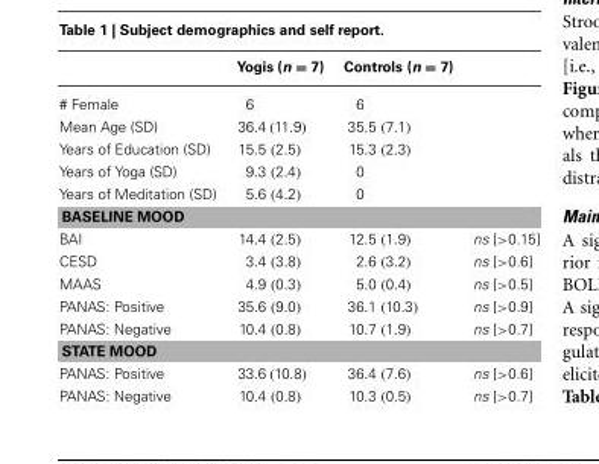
<table><thead><tr><td></td><td>Yogis (n = 7)</td><td>Controls (n = 7)</td><td></td></tr></thead><tbody><tr><td># Female</td><td>6</td><td>6</td><td></td></tr><tr><td>Mean Age (SD)</td><td>36.4 (11.9)</td><td>35.5 (7.1)</td><td></td></tr><tr><td>Years of Education (SD)</td><td>15.5 (2.5)</td><td>15.3 (2.3)</td><td></td></tr><tr><td>Years of Yoga (SD)</td><td>9.3 (2.4)</td><td>0</td><td></td></tr><tr><td>Years of Meditation (SD)</td><td>5.6 (4.2)</td><td>0</td><td></td></tr><tr><td colspan="4">BASELINE MOOD</td></tr><tr><td>BAI</td><td>14.4 (2.5)</td><td>12.5 (1.9)</td><td>ns [&gt;0.15]</td></tr><tr><td>CESD</td><td>3.4 (3.8)</td><td>2.6 (3.2)</td><td>ns [&gt;0.6]</td></tr><tr><td>MAAS</td><td>4.9 (0.3)</td><td>5.0 (0.4)</td><td>ns [&gt;0.5]</td></tr><tr><td>PANAS: Positive</td><td>35.6 (9.0)</td><td>36.1 (10.3)</td><td>ns [&gt;0.9]</td></tr><tr><td>PANAS: Negative</td><td>10.4 (0.8)</td><td>10.7 (1.9)</td><td>ns [&gt;0.7]</td></tr><tr><td colspan="4">STATE MOOD</td></tr><tr><td>PANAS: Positive</td><td>33.6 (10.8)</td><td>36.4 (7.6)</td><td>ns [&gt;0.6]</td></tr><tr><td>PANAS: Negative</td><td>10.4 (0.8)</td><td>10.3 (0.5)</td><td>ns [&gt;0.7]</td></tr></tbody></table>